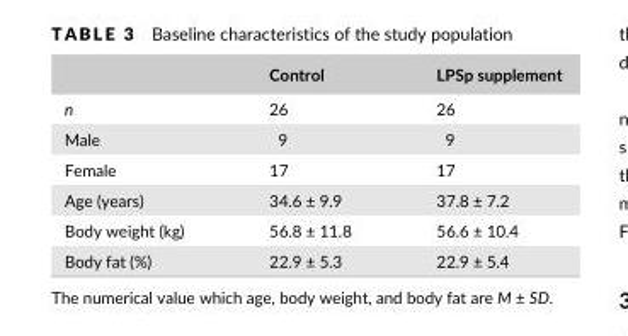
<table><thead><tr><td></td><td>Control</td><td>LPSp supplement</td></tr></thead><tbody><tr><td>n</td><td>26</td><td>26</td></tr><tr><td>Male</td><td>9</td><td>9</td></tr><tr><td>Female</td><td>17</td><td>17</td></tr><tr><td>Age (years)</td><td>34.6 ± 9.9</td><td>37.8 ± 7.2</td></tr><tr><td>Body weight (kg)</td><td>56.8 ± 11.8</td><td>56.6 ± 10.4</td></tr><tr><td>Body fat (%)</td><td>22.9 ± 5.3</td><td>22.9 ± 5.4</td></tr></tbody></table>